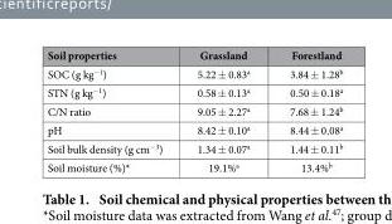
<table><thead><tr><td>Soil properties</td><td>Grassland</td><td>Forestland</td></tr></thead><tbody><tr><td>SOC (g kg<sup>−1</sup>)</td><td>5.22 ± 0.83<sup>a</sup></td><td>3.84 ± 1.28<sup>b</sup></td></tr><tr><td>STN (g kg<sup>−1</sup>)</td><td>0.58 ± 0.13<sup>a</sup></td><td>0.50 ± 0.18<sup>a</sup></td></tr><tr><td>C/N ratio</td><td>9.05 ± 2.27<sup>a</sup></td><td>7.68 ± 1.24<sup>b</sup></td></tr><tr><td>pH</td><td>8.42 ± 0.10<sup>a</sup></td><td>8.44 ± 0.08<sup>a</sup></td></tr><tr><td>Soil bulk density (g cm<sup>−3</sup>)</td><td>1.34 ± 0.07<sup>a</sup></td><td>1.44 ± 0.11<sup>b</sup></td></tr><tr><td>Soil moisture (%)*</td><td>19.1%<sup>a</sup></td><td>13.4%<sup>b</sup></td></tr></tbody></table>